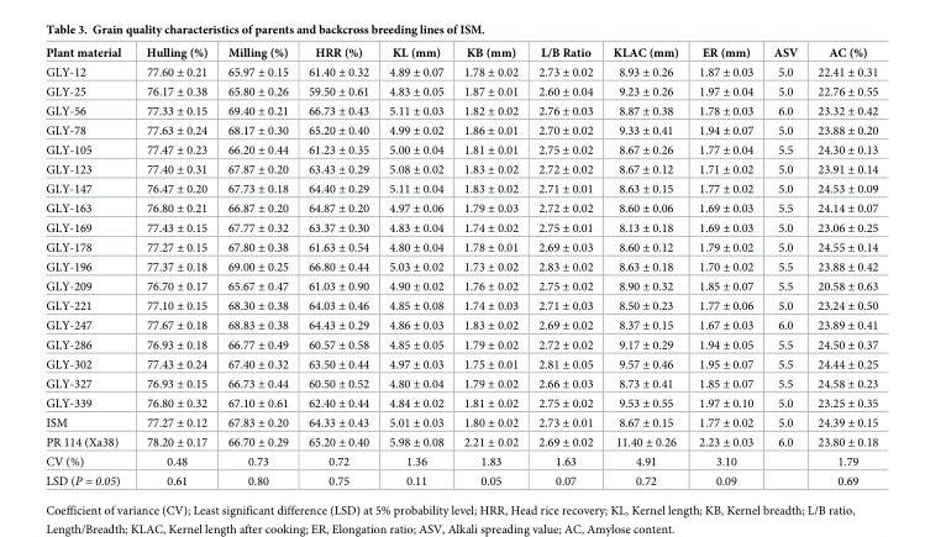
<table><thead><tr><td>Plant material</td><td>Hulling (%)</td><td>Milling (%)</td><td>HRR (%)</td><td>KL (mm)</td><td>KB (mm)</td><td>L/B Ratio</td><td>KLAC (mm)</td><td>ER (mm)</td><td>ASV</td><td>AC (%)</td></tr></thead><tbody><tr><td>GLY-12</td><td>77.60 ± 0.21</td><td>65.97 ± 0.15</td><td>61.40 ± 0.32</td><td>4.89 ± 0.07</td><td>1.78 ± 0.02</td><td>2.73 ± 0.02</td><td>8.93 ± 0.26</td><td>1.87 ± 0.03</td><td>5.0</td><td>22.41 ± 0.31</td></tr><tr><td>GLY-25</td><td>76.17 ± 0.38</td><td>65.80 ± 0.26</td><td>59.50 ± 0.61</td><td>4.83 ± 0.05</td><td>1.87 ± 0.01</td><td>2.60 ± 0.04</td><td>9.23 ± 0.26</td><td>1.97 ± 0.04</td><td>5.0</td><td>22.76 ± 0.55</td></tr><tr><td>GLY-56</td><td>77.33 ± 0.15</td><td>69.40 ± 0.21</td><td>66.73 ± 0.43</td><td>5.11 ± 0.03</td><td>1.82 ± 0.02</td><td>2.76 ± 0.03</td><td>8.87 ± 0.38</td><td>1.78 ± 0.03</td><td>6.0</td><td>23.32 ± 0.42</td></tr><tr><td>GLY-78</td><td>77.63 ± 0.24</td><td>68.17 ± 0.30</td><td>65.20 ± 0.40</td><td>4.99 ± 0.02</td><td>1.86 ± 0.01</td><td>2.70 ± 0.02</td><td>9.33 ± 0.41</td><td>1.94 ± 0.07</td><td>5.0</td><td>23.88 ± 0.20</td></tr><tr><td>GLY-105</td><td>77.47 ± 0.23</td><td>66.20 ± 0.44</td><td>61.23 ± 0.35</td><td>5.00 ± 0.04</td><td>1.81 ± 0.01</td><td>2.75 ± 0.02</td><td>8.67 ± 0.26</td><td>1.77 ± 0.04</td><td>5.5</td><td>24.30 ± 0.13</td></tr><tr><td>GLY-123</td><td>77.40 ± 0.31</td><td>67.87 ± 0.20</td><td>63.43 ± 0.29</td><td>5.08 ± 0.02</td><td>1.83 ± 0.02</td><td>2.72 ± 0.02</td><td>8.67 ± 0.12</td><td>1.71 ± 0.02</td><td>5.0</td><td>23.91 ± 0.14</td></tr><tr><td>GLY-147</td><td>76.47 ± 0.20</td><td>67.73 ± 0.18</td><td>64.40 ± 0.29</td><td>5.11 ± 0.04</td><td>1.83 ± 0.02</td><td>2.71 ± 0.01</td><td>8.63 ± 0.15</td><td>1.77 ± 0.02</td><td>5.0</td><td>24.53 ± 0.09</td></tr><tr><td>GLY-163</td><td>76.80 ± 0.21</td><td>66.87 ± 0.20</td><td>64.87 ± 0.20</td><td>4.97 ± 0.06</td><td>1.79 ± 0.03</td><td>2.72 ± 0.02</td><td>8.60 ± 0.06</td><td>1.69 ± 0.03</td><td>5.5</td><td>24.14 ± 0.07</td></tr><tr><td>GLY-169</td><td>77.43 ± 0.15</td><td>67.77 ± 0.32</td><td>63.37 ± 0.30</td><td>4.83 ± 0.04</td><td>1.74 ± 0.02</td><td>2.75 ± 0.01</td><td>8.13 ± 0.18</td><td>1.69 ± 0.03</td><td>5.0</td><td>23.06 ± 0.25</td></tr><tr><td>GLY-178</td><td>77.27 ± 0.15</td><td>67.80 ± 0.38</td><td>61.63 ± 0.54</td><td>4.80 ± 0.04</td><td>1.78 ± 0.01</td><td>2.69 ± 0.03</td><td>8.60 ± 0.12</td><td>1.79 ± 0.02</td><td>5.0</td><td>24.55 ± 0.14</td></tr><tr><td>GLY-196</td><td>77.37 ± 0.18</td><td>69.00 ± 0.25</td><td>66.80 ± 0.44</td><td>5.03 ± 0.02</td><td>1.73 ± 0.02</td><td>2.83 ± 0.02</td><td>8.63 ± 0.18</td><td>1.70 ± 0.02</td><td>5.5</td><td>23.88 ± 0.42</td></tr><tr><td>GLY-209</td><td>76.70 ± 0.17</td><td>65.67 ± 0.47</td><td>61.03 ± 0.90</td><td>4.90 ± 0.02</td><td>1.76 ± 0.02</td><td>2.75 ± 0.02</td><td>8.90 ± 0.32</td><td>1.85 ± 0.07</td><td>5.5</td><td>20.58 ± 0.63</td></tr><tr><td>GLY-221</td><td>77.10 ± 0.15</td><td>68.30 ± 0.38</td><td>64.03 ± 0.46</td><td>4.85 ± 0.08</td><td>1.74 ± 0.03</td><td>2.71 ± 0.03</td><td>8.50 ± 0.23</td><td>1.77 ± 0.06</td><td>5.0</td><td>23.24 ± 0.50</td></tr><tr><td>GLY-247</td><td>77.67 ± 0.18</td><td>68.83 ± 0.38</td><td>64.43 ± 0.29</td><td>4.86 ± 0.03</td><td>1.83 ± 0.02</td><td>2.69 ± 0.02</td><td>8.37 ± 0.15</td><td>1.67 ± 0.03</td><td>6.0</td><td>23.89 ± 0.41</td></tr><tr><td>GLY-286</td><td>76.93 ± 0.18</td><td>66.77 ± 0.49</td><td>60.57 ± 0.58</td><td>4.85 ± 0.05</td><td>1.79 ± 0.02</td><td>2.72 ± 0.02</td><td>9.17 ± 0.29</td><td>1.94 ± 0.05</td><td>5.5</td><td>24.50 ± 0.37</td></tr><tr><td>GLY-302</td><td>77.43 ± 0.24</td><td>67.40 ± 0.32</td><td>63.50 ± 0.44</td><td>4.97 ± 0.03</td><td>1.75 ± 0.01</td><td>2.81 ± 0.05</td><td>9.57 ± 0.46</td><td>1.95 ± 0.07</td><td>5.5</td><td>24.44 ± 0.25</td></tr><tr><td>GLY-327</td><td>76.93 ± 0.15</td><td>66.73 ± 0.44</td><td>60.50 ± 0.52</td><td>4.80 ± 0.04</td><td>1.79 ± 0.02</td><td>2.66 ± 0.03</td><td>8.73 ± 0.41</td><td>1.85 ± 0.07</td><td>5.5</td><td>24.58 ± 0.23</td></tr><tr><td>GLY-339</td><td>76.80 ± 0.32</td><td>67.10 ± 0.61</td><td>62.40 ± 0.44</td><td>4.84 ± 0.02</td><td>1.81 ± 0.02</td><td>2.75 ± 0.02</td><td>9.53 ± 0.55</td><td>1.97 ± 0.10</td><td>5.0</td><td>23.25 ± 0.35</td></tr><tr><td>ISM</td><td>77.27 ± 0.12</td><td>67.83 ± 0.20</td><td>64.33 ± 0.43</td><td>5.01 ± 0.03</td><td>1.80 ± 0.02</td><td>2.73 ± 0.01</td><td>8.67 ± 0.15</td><td>1.77 ± 0.02</td><td>5.0</td><td>24.39 ± 0.15</td></tr><tr><td>PR 114 (Xa38)</td><td>78.20 ± 0.17</td><td>66.70 ± 0.29</td><td>65.20 ± 0.40</td><td>5.98 ± 0.08</td><td>2.21 ± 0.02</td><td>2.69 ± 0.02</td><td>11.40 ± 0.26</td><td>2.23 ± 0.03</td><td>6.0</td><td>23.80 ± 0.18</td></tr><tr><td>CV (%)</td><td>0.48</td><td>0.73</td><td>0.72</td><td>1.36</td><td>1.83</td><td>1.63</td><td>4.91</td><td>3.10</td><td></td><td>1.79</td></tr><tr><td>LSD (P = 0.05)</td><td>0.61</td><td>0.80</td><td>0.75</td><td>0.11</td><td>0.05</td><td>0.07</td><td>0.72</td><td>0.09</td><td></td><td>0.69</td></tr></tbody></table>